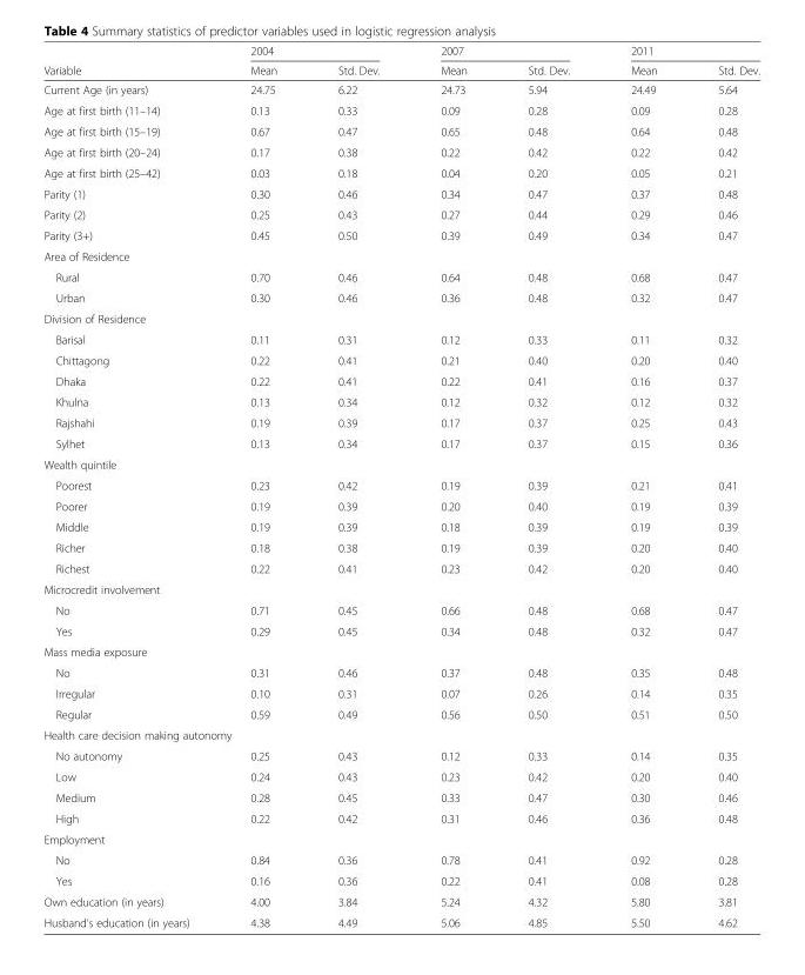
<table><thead><tr><td rowspan="2">Variable</td><td colspan="2">2004</td><td colspan="2">2007</td><td colspan="2">2011</td></tr><tr><td>Mean</td><td>Std. Dev.</td><td>Mean</td><td>Std. Dev.</td><td>Mean</td><td>Std. Dev.</td></tr></thead><tbody><tr><td>Current Age (in years)</td><td>24.75</td><td>6.22</td><td>24.73</td><td>5.94</td><td>24.49</td><td>5.64</td></tr><tr><td>Age at first birth (11–14)</td><td>0.13</td><td>0.33</td><td>0.09</td><td>0.28</td><td>0.09</td><td>0.28</td></tr><tr><td>Age at first birth (15–19)</td><td>0.67</td><td>0.47</td><td>0.65</td><td>0.48</td><td>0.64</td><td>0.48</td></tr><tr><td>Age at first birth (20–24)</td><td>0.17</td><td>0.38</td><td>0.22</td><td>0.42</td><td>0.22</td><td>0.42</td></tr><tr><td>Age at first birth (25–42)</td><td>0.03</td><td>0.18</td><td>0.04</td><td>0.20</td><td>0.05</td><td>0.21</td></tr><tr><td>Parity (1)</td><td>0.30</td><td>0.46</td><td>0.34</td><td>0.47</td><td>0.37</td><td>0.48</td></tr><tr><td>Parity (2)</td><td>0.25</td><td>0.43</td><td>0.27</td><td>0.44</td><td>0.29</td><td>0.46</td></tr><tr><td>Parity (3+)</td><td>0.45</td><td>0.50</td><td>0.39</td><td>0.49</td><td>0.34</td><td>0.47</td></tr><tr><td colspan="7">Area of Residence</td></tr><tr><td>Rural</td><td>0.70</td><td>0.46</td><td>0.64</td><td>0.48</td><td>0.68</td><td>0.47</td></tr><tr><td>Urban</td><td>0.30</td><td>0.46</td><td>0.36</td><td>0.48</td><td>0.32</td><td>0.47</td></tr><tr><td colspan="7">Division of Residence</td></tr><tr><td>Barisal</td><td>0.11</td><td>0.31</td><td>0.12</td><td>0.33</td><td>0.11</td><td>0.32</td></tr><tr><td>Chittagong</td><td>0.22</td><td>0.41</td><td>0.21</td><td>0.40</td><td>0.20</td><td>0.40</td></tr><tr><td>Dhaka</td><td>0.22</td><td>0.41</td><td>0.22</td><td>0.41</td><td>0.16</td><td>0.37</td></tr><tr><td>Khulna</td><td>0.13</td><td>0.34</td><td>0.12</td><td>0.32</td><td>0.12</td><td>0.32</td></tr><tr><td>Rajshahi</td><td>0.19</td><td>0.39</td><td>0.17</td><td>0.37</td><td>0.25</td><td>0.43</td></tr><tr><td>Sylhet</td><td>0.13</td><td>0.34</td><td>0.17</td><td>0.37</td><td>0.15</td><td>0.36</td></tr><tr><td colspan="7">Wealth quintile</td></tr><tr><td>Poorest</td><td>0.23</td><td>0.42</td><td>0.19</td><td>0.39</td><td>0.21</td><td>0.41</td></tr><tr><td>Poorer</td><td>0.19</td><td>0.39</td><td>0.20</td><td>0.40</td><td>0.19</td><td>0.39</td></tr><tr><td>Middle</td><td>0.19</td><td>0.39</td><td>0.18</td><td>0.39</td><td>0.19</td><td>0.39</td></tr><tr><td>Richer</td><td>0.18</td><td>0.38</td><td>0.19</td><td>0.39</td><td>0.20</td><td>0.40</td></tr><tr><td>Richest</td><td>0.22</td><td>0.41</td><td>0.23</td><td>0.42</td><td>0.20</td><td>0.40</td></tr><tr><td colspan="7">Microcredit involvement</td></tr><tr><td>No</td><td>0.71</td><td>0.45</td><td>0.66</td><td>0.48</td><td>0.68</td><td>0.47</td></tr><tr><td>Yes</td><td>0.29</td><td>0.45</td><td>0.34</td><td>0.48</td><td>0.32</td><td>0.47</td></tr><tr><td colspan="7">Mass media exposure</td></tr><tr><td>No</td><td>0.31</td><td>0.46</td><td>0.37</td><td>0.48</td><td>0.35</td><td>0.48</td></tr><tr><td>Irregular</td><td>0.10</td><td>0.31</td><td>0.07</td><td>0.26</td><td>0.14</td><td>0.35</td></tr><tr><td>Regular</td><td>0.59</td><td>0.49</td><td>0.56</td><td>0.50</td><td>0.51</td><td>0.50</td></tr><tr><td colspan="7">Health care decision making autonomy</td></tr><tr><td>No autonomy</td><td>0.25</td><td>0.43</td><td>0.12</td><td>0.33</td><td>0.14</td><td>0.35</td></tr><tr><td>Low</td><td>0.24</td><td>0.43</td><td>0.23</td><td>0.42</td><td>0.20</td><td>0.40</td></tr><tr><td>Medium</td><td>0.28</td><td>0.45</td><td>0.33</td><td>0.47</td><td>0.30</td><td>0.46</td></tr><tr><td>High</td><td>0.22</td><td>0.42</td><td>0.31</td><td>0.46</td><td>0.36</td><td>0.48</td></tr><tr><td colspan="7">Employment</td></tr><tr><td>No</td><td>0.84</td><td>0.36</td><td>0.78</td><td>0.41</td><td>0.92</td><td>0.28</td></tr><tr><td>Yes</td><td>0.16</td><td>0.36</td><td>0.22</td><td>0.41</td><td>0.08</td><td>0.28</td></tr><tr><td>Own education (in years)</td><td>4.00</td><td>3.84</td><td>5.24</td><td>4.32</td><td>5.80</td><td>3.81</td></tr><tr><td>Husband’s education (in years)</td><td>4.38</td><td>4.49</td><td>5.06</td><td>4.85</td><td>5.50</td><td>4.62</td></tr></tbody></table>